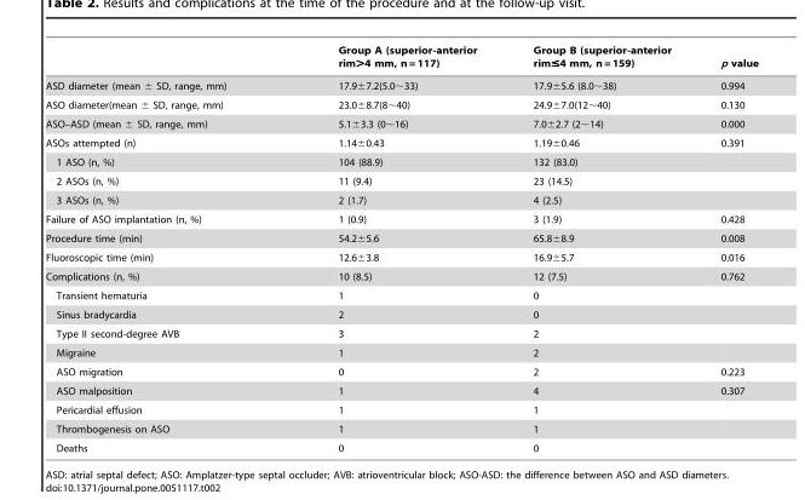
<table><thead><tr><td></td><td>Group A (superior-anterior rim&gt;4 mm, n = 117)</td><td>Group B (superior-anterior rim≤4 mm, n = 159)</td><td>p value</td></tr></thead><tbody><tr><td>ASD diameter (mean ± SD, range, mm)</td><td>17.9±7.2(5.0∼33)</td><td>17.9±5.6 (8.0∼38)</td><td>0.994</td></tr><tr><td>ASO diameter(mean ± SD, range, mm)</td><td>23.0±8.7(8∼40)</td><td>24.9±7.0(12∼40)</td><td>0.130</td></tr><tr><td>ASO–ASD (mean ± SD, range, mm)</td><td>5.1±3.3 (0∼16)</td><td>7.0±2.7 (2∼14)</td><td>0.000</td></tr><tr><td>ASOs attempted (n)</td><td>1.14±0.43</td><td>1.19±0.46</td><td>0.391</td></tr><tr><td>1 ASO (n, %)</td><td>104 (88.9)</td><td>132 (83.0)</td><td></td></tr><tr><td>2 ASOs (n, %)</td><td>11 (9.4)</td><td>23 (14.5)</td><td></td></tr><tr><td>3 ASOs (n, %)</td><td>2 (1.7)</td><td>4 (2.5)</td><td></td></tr><tr><td>Failure of ASO implantation (n, %)</td><td>1 (0.9)</td><td>3 (1.9)</td><td>0.428</td></tr><tr><td>Procedure time (min)</td><td>54.2±5.6</td><td>65.8±8.9</td><td>0.008</td></tr><tr><td>Fluoroscopic time (min)</td><td>12.6±3.8</td><td>16.9±5.7</td><td>0.016</td></tr><tr><td>Complications (n, %)</td><td>10 (8.5)</td><td>12 (7.5)</td><td>0.762</td></tr><tr><td>Transient hematuria</td><td>1</td><td>0</td><td></td></tr><tr><td>Sinus bradycardia</td><td>2</td><td>0</td><td></td></tr><tr><td>Type II second-degree AVB</td><td>3</td><td>2</td><td></td></tr><tr><td>Migraine</td><td>1</td><td>2</td><td></td></tr><tr><td>ASO migration</td><td>0</td><td>2</td><td>0.223</td></tr><tr><td>ASO malposition</td><td>1</td><td>4</td><td>0.307</td></tr><tr><td>Pericardial effusion</td><td>1</td><td>1</td><td></td></tr><tr><td>Thrombogenesis on ASO</td><td>1</td><td>1</td><td></td></tr><tr><td>Deaths</td><td>0</td><td>0</td><td></td></tr></tbody></table>